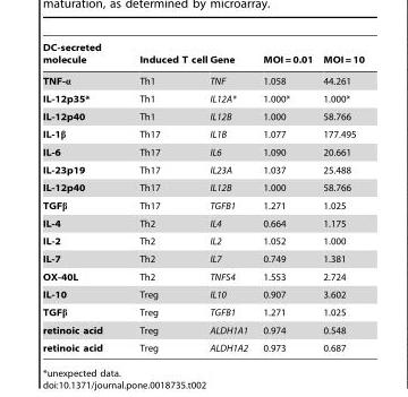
<table><thead><tr><td>DC-secreted molecule</td><td>Induced T cell</td><td>Gene</td><td>MOI = 0.01</td><td>MOI = 10</td></tr></thead><tbody><tr><td>TNF-α</td><td>Th1</td><td>TNF</td><td>1.058</td><td>44.261</td></tr><tr><td>IL-12p35*</td><td>Th1</td><td>IL12A*</td><td>1.000*</td><td>1.000*</td></tr><tr><td>IL-12p40</td><td>Th1</td><td>IL12B</td><td>1.000</td><td>58.766</td></tr><tr><td>IL-1β</td><td>Th17</td><td>IL1B</td><td>1.077</td><td>177.495</td></tr><tr><td>IL-6</td><td>Th17</td><td>IL6</td><td>1.090</td><td>20.661</td></tr><tr><td>IL-23p19</td><td>Th17</td><td>IL23A</td><td>1.037</td><td>25.488</td></tr><tr><td>IL-12p40</td><td>Th17</td><td>IL12B</td><td>1.000</td><td>58.766</td></tr><tr><td>TGFβ</td><td>Th17</td><td>TGFB1</td><td>1.271</td><td>1.025</td></tr><tr><td>IL-4</td><td>Th2</td><td>IL4</td><td>0.664</td><td>1.175</td></tr><tr><td>IL-2</td><td>Th2</td><td>IL2</td><td>1.052</td><td>1.000</td></tr><tr><td>IL-7</td><td>Th2</td><td>IL7</td><td>0.749</td><td>1.381</td></tr><tr><td>OX-40L</td><td>Th2</td><td>TNFS4</td><td>1.553</td><td>2.724</td></tr><tr><td>IL-10</td><td>Treg</td><td>IL10</td><td>0.907</td><td>3.602</td></tr><tr><td>TGFβ</td><td>Treg</td><td>TGFB1</td><td>1.271</td><td>1.025</td></tr><tr><td>retinoic acid</td><td>Treg</td><td>ALDH1A1</td><td>0.974</td><td>0.548</td></tr><tr><td>retinoic acid</td><td>Treg</td><td>ALDH1A2</td><td>0.973</td><td>0.687</td></tr></tbody></table>